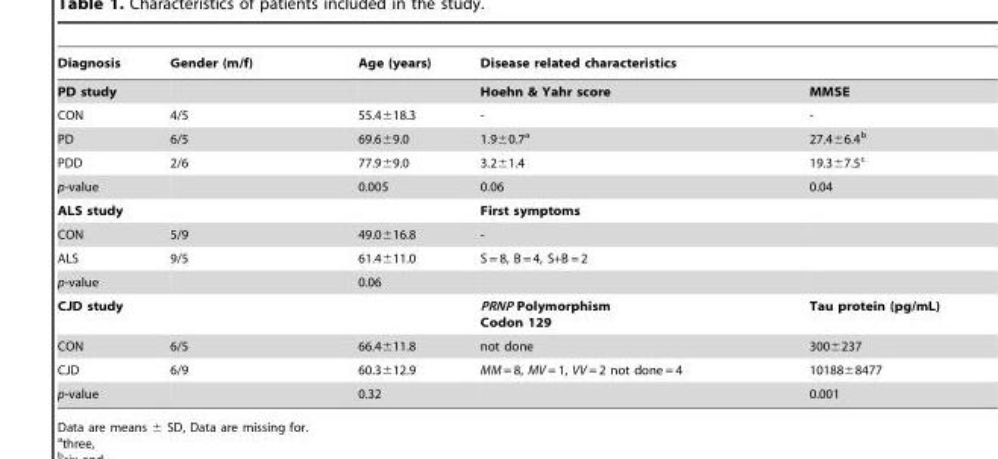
<table><thead><tr><td rowspan="2">Diagnosis PD study</td><td rowspan="2">Gender (m/f)</td><td rowspan="2">Age (years)</td><td colspan="2">Disease related characteristics</td></tr><tr><td>Hoehn &amp; Yahr score</td><td>MMSE</td></tr></thead><tbody><tr><td>CON</td><td>4/5</td><td>55.4±18.3</td><td>-</td><td>-</td></tr><tr><td>PD</td><td>6/5</td><td>69.6±9.0</td><td>1.9±0.7<sup>a</sup></td><td>27.4±6.4<sup>b</sup></td></tr><tr><td>PDD</td><td>2/6</td><td>77.9±9.0</td><td>3.2±1.4</td><td>19.3±7.5<sup>c</sup></td></tr><tr><td>p-value</td><td></td><td>0.005</td><td>0.06</td><td>0.04</td></tr><tr><td>ALS study</td><td></td><td></td><td>First symptoms</td><td></td></tr><tr><td>CON</td><td>5/9</td><td>49.0±16.8</td><td>-</td><td></td></tr><tr><td>ALS</td><td>9/5</td><td>61.4±11.0</td><td>S = 8, B = 4, S+B = 2</td><td></td></tr><tr><td>p-value</td><td></td><td>0.06</td><td></td><td></td></tr><tr><td>CJD study</td><td></td><td></td><td>PRNP Polymorphism Codon 129</td><td>Tau protein (pg/mL)</td></tr><tr><td>CON</td><td>6/5</td><td>66.4±11.8</td><td>not done</td><td>300±237</td></tr><tr><td>CJD</td><td>6/9</td><td>60.3±12.9</td><td>MM = 8, MV = 1, VV = 2 not done = 4</td><td>10188±8477</td></tr><tr><td>p-value</td><td></td><td>0.32</td><td></td><td>0.001</td></tr></tbody></table>